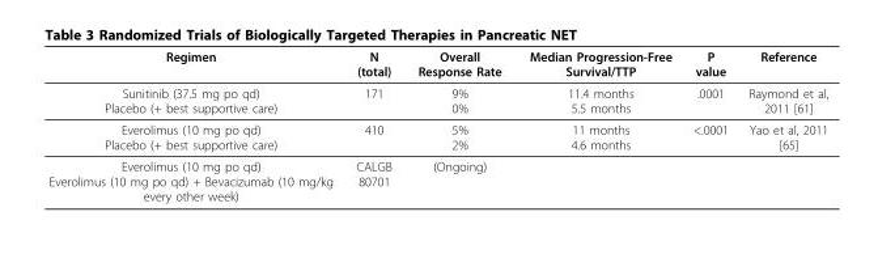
<table><thead><tr><td>Regimen</td><td>N (total)</td><td>Overall Response Rate</td><td>Median Progression-Free Survival/TTP</td><td>P value</td><td>Reference</td></tr></thead><tbody><tr><td>Sunitinib (37.5 mg po qd) Placebo (+ best supportive care)</td><td>171</td><td>9% 0%</td><td>11.4 months 5.5 months</td><td>.0001</td><td>Raymond et al, 2011 [61]</td></tr><tr><td>Everolimus (10 mg po qd) Placebo (+ best supportive care)</td><td>410</td><td>5% 2%</td><td>11 months 4.6 months</td><td>&lt;.0001</td><td>Yao et al, 2011 [65]</td></tr><tr><td>Everolimus (10 mg po qd) Everolimus (10 mg po qd) + Bevacizumab (10 mg/kg every other week)</td><td>CALGB 80701</td><td>(Ongoing)</td><td></td><td></td><td></td></tr></tbody></table>